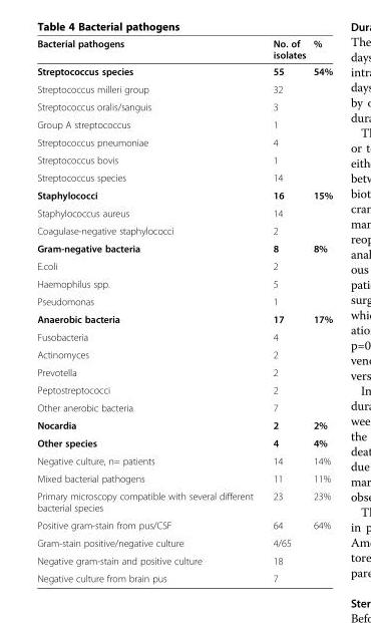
<table><thead><tr><td>Bacterial pathogens</td><td>No. of isolates</td><td>%</td></tr></thead><tbody><tr><td>Streptococcus species</td><td>55</td><td>54%</td></tr><tr><td>Streptococcus milleri group</td><td>32</td><td></td></tr><tr><td>Streptococcus oralis/sanguis</td><td>3</td><td></td></tr><tr><td>Group A streptococcus</td><td>1</td><td></td></tr><tr><td>Streptococcus pneumoniae</td><td>4</td><td></td></tr><tr><td>Streptococcus bovis</td><td>1</td><td></td></tr><tr><td>Streptococcus species</td><td>14</td><td></td></tr><tr><td>Staphylococci</td><td>16</td><td>15%</td></tr><tr><td>Staphylococcus aureus</td><td>14</td><td></td></tr><tr><td>Coagulase-negative staphylococci</td><td>2</td><td></td></tr><tr><td>Gram-negative bacteria</td><td>8</td><td>8%</td></tr><tr><td>E.coli</td><td>2</td><td></td></tr><tr><td>Haemophilus spp.</td><td>5</td><td></td></tr><tr><td>Pseudomonas</td><td>1</td><td></td></tr><tr><td>Anaerobic bacteria</td><td>17</td><td>17%</td></tr><tr><td>Fusobacteria</td><td>4</td><td></td></tr><tr><td>Actinomyces</td><td>2</td><td></td></tr><tr><td>Prevotella</td><td>2</td><td></td></tr><tr><td>Peptostreptococci</td><td>2</td><td></td></tr><tr><td>Other anerobic bacteria</td><td>7</td><td></td></tr><tr><td>Nocardia</td><td>2</td><td>2%</td></tr><tr><td>Other species</td><td>4</td><td>4%</td></tr><tr><td>Negative culture, n= patients</td><td>14</td><td>14%</td></tr><tr><td>Mixed bacterial pathogens</td><td>11</td><td>11%</td></tr><tr><td>Primary microscopy compatible with several different bacterial species</td><td>23</td><td>23%</td></tr><tr><td>Positive gram-stain from pus/CSF</td><td>64</td><td>64%</td></tr><tr><td>Gram-stain positive/negative culture</td><td>4/65</td><td></td></tr><tr><td>Negative gram-stain and positive culture</td><td>18</td><td></td></tr><tr><td>Negative culture from brain pus</td><td>7</td><td></td></tr></tbody></table>